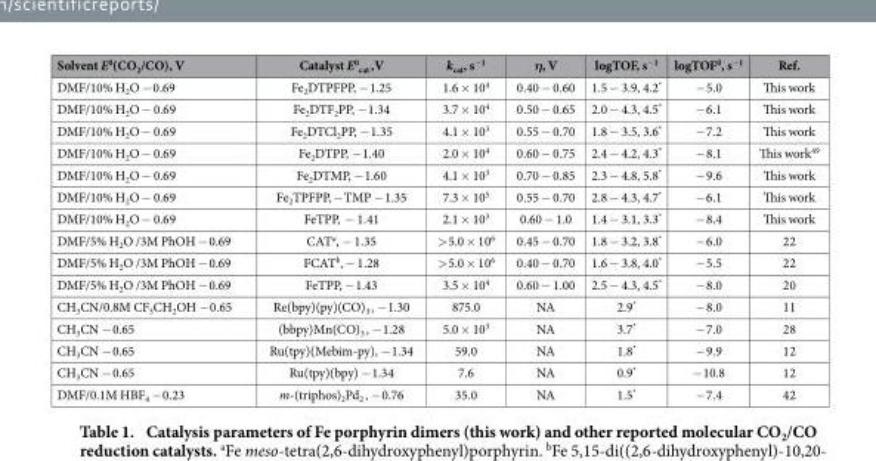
<table><thead><tr><td>Solvent E<sup>0</sup>(CO<sub>2</sub>/CO), V</td><td>Catalyst E<sup>0</sup> <sub>cat</sub> ,V</td><td>k<sub>cat</sub>, s<sup>−1</sup></td><td>η, V</td><td>logTOF, s<sup>−1</sup></td><td>logTOF<sup>0</sup>, s<sup>−1</sup></td><td>Ref.</td></tr></thead><tbody><tr><td>DMF/10% H<sub>2</sub>O − 0.69</td><td>Fe<sub>2</sub>DTPFPP, − 1.25</td><td>1.6 × 10<sup>4</sup></td><td>0.40 − 0.60</td><td>1.5 − 3.9, 4.2*</td><td>− 5.0</td><td>This work</td></tr><tr><td>DMF/10% H<sub>2</sub>O − 0.69</td><td>Fe<sub>2</sub>DTF<sub>2</sub>PP, − 1.34</td><td>3.7 × 10<sup>4</sup></td><td>0.50 − 0.65</td><td>2.0 − 4.3, 4.5*</td><td>− 6.1</td><td>This work</td></tr><tr><td>DMF/10% H<sub>2</sub>O − 0.69</td><td>Fe<sub>2</sub>DTCl<sub>2</sub>PP, − 1.35</td><td>4.1 × 10<sup>3</sup></td><td>0.55 − 0.70</td><td>1.8 − 3.5, 3.6*</td><td>− 7.2</td><td>This work</td></tr><tr><td>DMF/10% H<sub>2</sub>O − 0.69</td><td>Fe<sub>2</sub>DTPP, − 1.40</td><td>2.0 × 10<sup>4</sup></td><td>0.60 − 0.75</td><td>2.4 − 4.2, 4.3*</td><td>− 8.1</td><td>This work<sup>49</sup></td></tr><tr><td>DMF/10% H<sub>2</sub>O − 0.69</td><td>Fe<sub>2</sub>DTMP, − 1.60</td><td>4.1 × 10<sup>3</sup></td><td>0.70 − 0.85</td><td>2.3 − 4.8, 5.8*</td><td>− 9.6</td><td>This work</td></tr><tr><td>DMF/10% H<sub>2</sub>O − 0.69</td><td>Fe<sub>2</sub>TPFPP, − TMP − 1.35</td><td>7.3 × 10<sup>5</sup></td><td>0.55 − 0.70</td><td>2.8 − 4.3, 4.7*</td><td>− 6.1</td><td>This work</td></tr><tr><td>DMF/10% H<sub>2</sub>O − 0.69</td><td>FeTPP, − 1.41</td><td>2.1 × 10<sup>3</sup></td><td>0.60 − 1.0</td><td>1.4 − 3.1, 3.3*</td><td>− 8.4</td><td>This work</td></tr><tr><td>DMF/5% H<sub>2</sub>O /3M PhOH − 0.69</td><td>CAT<sup>a</sup>, − 1.35</td><td>&gt; 5.0 × 10<sup>6</sup></td><td>0.45 − 0.70</td><td>1.8 − 3.2, 3.8*</td><td>− 6.0</td><td>22</td></tr><tr><td>DMF/5% H<sub>2</sub>O /3M PhOH − 0.69</td><td>FCAT<sup>b</sup>, − 1.28</td><td>&gt; 5.0 × 10<sup>6</sup></td><td>0.40 − 0.70</td><td>1.6 − 3.8, 4.0*</td><td>− 5.5</td><td>22</td></tr><tr><td>DMF/5% H<sub>2</sub>O /3M PhOH − 0.69</td><td>FeTPP, − 1.43</td><td>3.5 × 10<sup>4</sup></td><td>0.60 − 1.00</td><td>2.5 − 4.3, 4.5*</td><td>− 8.0</td><td>20</td></tr><tr><td>CH<sub>3</sub>CN/0.8M CF<sub>3</sub>CH<sub>2</sub>OH − 0.65</td><td>Re(bpy)(py)(CO)<sub>3</sub> , − 1.30</td><td>875.0</td><td>NA</td><td>2.9*</td><td>− 8.0</td><td>11</td></tr><tr><td>CH<sub>3</sub>CN − 0.65</td><td>(bbpy)Mn(CO)<sub>3</sub> , − 1.28</td><td>5.0 × 10<sup>3</sup></td><td>NA</td><td>3.7*</td><td>− 7.0</td><td>28</td></tr><tr><td>CH<sub>3</sub>CN − 0.65</td><td>Ru(tpy)(Mebim-py), − 1.34</td><td>59.0</td><td>NA</td><td>1.8*</td><td>− 9.9</td><td>12</td></tr><tr><td>CH<sub>3</sub>CN − 0.65</td><td>Ru(tpy)(bpy) − 1.34</td><td>7.6</td><td>NA</td><td>0.9*</td><td>− 10.8</td><td>12</td></tr><tr><td>DMF/0.1M HBF<sub>4</sub> − 0.23</td><td>m-(triphos)<sub>2</sub>Pd<sub>2</sub> , − 0.76</td><td>35.0</td><td>NA</td><td>1.5*</td><td>− 7.4</td><td>42</td></tr></tbody></table>